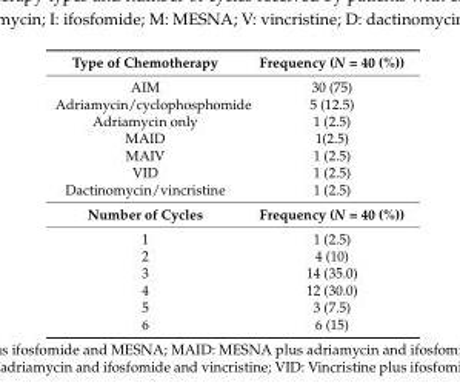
<table><thead><tr><td>Type of Chemotherapy</td><td>Frequency (N = 40 (%))</td></tr></thead><tbody><tr><td>AIM</td><td>30 (75)</td></tr><tr><td>Adriamycin/cyclophosphomide</td><td>5 (12.5)</td></tr><tr><td>Adriamycin only</td><td>1 (2.5)</td></tr><tr><td>MAID</td><td>1(2.5)</td></tr><tr><td>MAIV</td><td>1 (2.5)</td></tr><tr><td>VID</td><td>1 (2.5)</td></tr><tr><td>Dactinomycin/vincristine</td><td>1 (2.5)</td></tr><tr><td>Number of Cycles</td><td>Frequency (N = 40 (%))</td></tr><tr><td>1</td><td>1 (2.5)</td></tr><tr><td>2</td><td>4 (10)</td></tr><tr><td>3</td><td>14 (35.0)</td></tr><tr><td>4</td><td>12 (30.0)</td></tr><tr><td>5</td><td>3 (7.5)</td></tr><tr><td>6</td><td>6 (15)</td></tr></tbody></table>